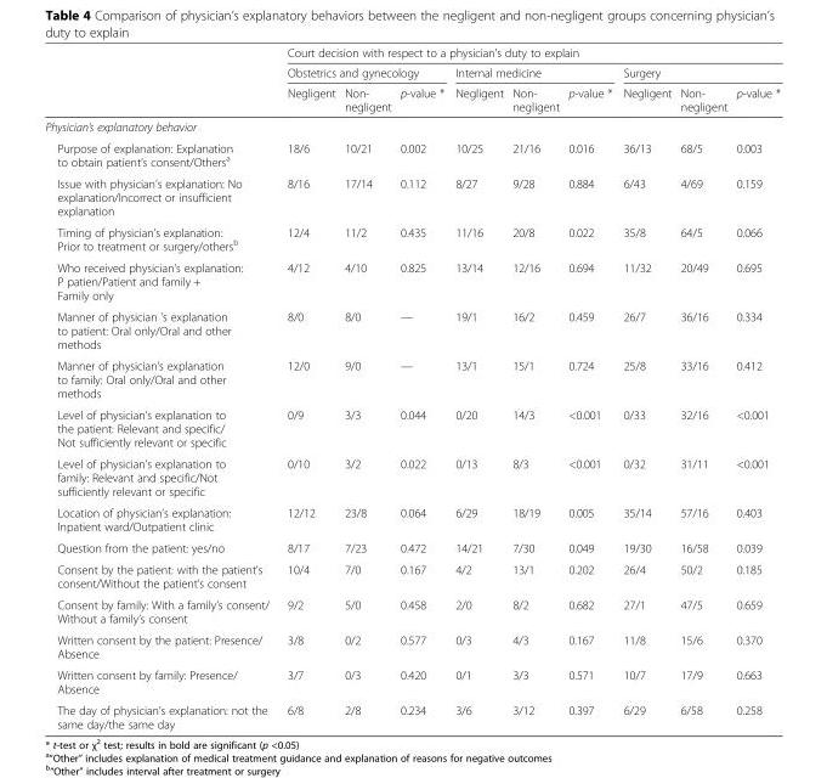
<table><thead><tr><td rowspan="3"></td><td colspan="9">Court decision with respect to a physician’s duty to explain</td></tr><tr><td colspan="3">Obstetrics and gynecology</td><td colspan="3">Internal medicine</td><td colspan="3">Surgery</td></tr><tr><td>Negligent</td><td>Non- negligent</td><td>p-value *</td><td>Negligent</td><td>Non- negligent</td><td>p-value *</td><td>Negligent</td><td>Non- negligent</td><td>p-value *</td></tr></thead><tbody><tr><td colspan="10">Physician’s explanatory behavior</td></tr><tr><td>Purpose of explanation: Explanation to obtain patient’s consent/Others<sup>a</sup></td><td>18/6</td><td>10/21</td><td>0.002</td><td>10/25</td><td>21/16</td><td>0.016</td><td>36/13</td><td>68/5</td><td>0.003</td></tr><tr><td>Issue with physician’s explanation: No explanation/Incorrect or insufficient explanation</td><td>8/16</td><td>17/14</td><td>0.112</td><td>8/27</td><td>9/28</td><td>0.884</td><td>6/43</td><td>4/69</td><td>0.159</td></tr><tr><td>Timing of physician’s explanation: Prior to treatment or surgery/others<sup>b</sup></td><td>12/4</td><td>11/2</td><td>0.435</td><td>11/16</td><td>20/8</td><td>0.022</td><td>35/8</td><td>64/5</td><td>0.066</td></tr><tr><td>Who received physician’s explanation: P patien/Patient and family + Family only</td><td>4/12</td><td>4/10</td><td>0.825</td><td>13/14</td><td>12/16</td><td>0.694</td><td>11/32</td><td>20/49</td><td>0.695</td></tr><tr><td>Manner of physician ’s explanation to patient: Oral only/Oral and other methods</td><td>8/0</td><td>8/0</td><td>—</td><td>19/1</td><td>16/2</td><td>0.459</td><td>26/7</td><td>36/16</td><td>0.334</td></tr><tr><td>Manner of physician’s explanation to family: Oral only/Oral and other methods</td><td>12/0</td><td>9/0</td><td>—</td><td>13/1</td><td>15/1</td><td>0.724</td><td>25/8</td><td>33/16</td><td>0.412</td></tr><tr><td>Level of physician’s explanation to the patient: Relevant and specific/ Not sufficiently relevant or specific</td><td>0/9</td><td>3/3</td><td>0.044</td><td>0/20</td><td>14/3</td><td>&lt;0.001</td><td>0/33</td><td>32/16</td><td>&lt;0.001</td></tr><tr><td>Level of physician’s explanation to family: Relevant and specific/Not sufficiently relevant or specific</td><td>0/10</td><td>3/2</td><td>0.022</td><td>0/13</td><td>8/3</td><td>&lt;0.001</td><td>0/32</td><td>31/11</td><td>&lt;0.001</td></tr><tr><td>Location of physician’s explanation: Inpatient ward/Outpatient clinic</td><td>12/12</td><td>23/8</td><td>0.064</td><td>6/29</td><td>18/19</td><td>0.005</td><td>35/14</td><td>57/16</td><td>0.403</td></tr><tr><td>Question from the patient: yes/no</td><td>8/17</td><td>7/23</td><td>0.472</td><td>14/21</td><td>7/30</td><td>0.049</td><td>19/30</td><td>16/58</td><td>0.039</td></tr><tr><td>Consent by the patient: with the patient’s consent/Without the patient’s consent</td><td>10/4</td><td>7/0</td><td>0.167</td><td>4/2</td><td>13/1</td><td>0.202</td><td>26/4</td><td>50/2</td><td>0.185</td></tr><tr><td>Consent by family: With a family’s consent/ Without a family’s consent</td><td>9/2</td><td>5/0</td><td>0.458</td><td>2/0</td><td>8/2</td><td>0.682</td><td>27/1</td><td>47/5</td><td>0.659</td></tr><tr><td>Written consent by the patient: Presence/ Absence</td><td>3/8</td><td>0/2</td><td>0.577</td><td>0/3</td><td>4/3</td><td>0.167</td><td>11/8</td><td>15/6</td><td>0.370</td></tr><tr><td>Written consent by family: Presence/ Absence</td><td>3/7</td><td>0/3</td><td>0.420</td><td>0/1</td><td>3/3</td><td>0.571</td><td>10/7</td><td>17/9</td><td>0.663</td></tr><tr><td>The day of physician’s explanation: not the same day/the same day</td><td>6/8</td><td>2/8</td><td>0.234</td><td>3/6</td><td>3/12</td><td>0.397</td><td>6/29</td><td>6/58</td><td>0.258</td></tr></tbody></table>